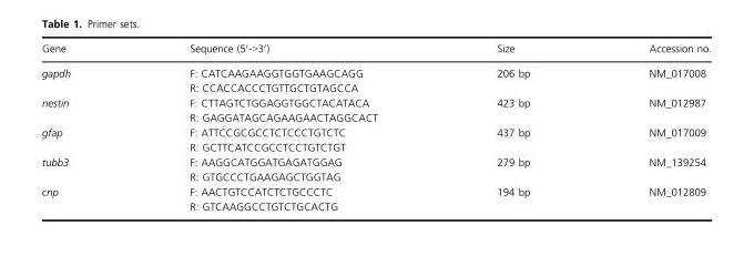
<table><thead><tr><td>Gene</td><td>Sequence (5′-&gt;3′)</td><td>Size</td><td>Accession no.</td></tr></thead><tbody><tr><td rowspan="2">gapdh</td><td>F: CATCAAGAAGGTGGTGAAGCAGG</td><td rowspan="2">206 bp</td><td rowspan="2">NM_017008</td></tr><tr><td>R: CCACCACCCTGTTGCTGTAGCCA</td></tr><tr><td rowspan="2">nestin</td><td>F: CTTAGTCTGGAGGTGGCTACATACA</td><td rowspan="2">423 bp</td><td rowspan="2">NM_012987</td></tr><tr><td>R: GAGGATAGCAGAAGAACTAGGCACT</td></tr><tr><td rowspan="2">gfap</td><td>F: ATTCCGCGCCTCTCCCTGTCTC</td><td rowspan="2">437 bp</td><td rowspan="2">NM_017009</td></tr><tr><td>R: GCTTCATCCGCCTCCTGTCTGT</td></tr><tr><td rowspan="2">tubb3</td><td>F: AAGGCATGGATGAGATGGAG</td><td rowspan="2">279 bp</td><td rowspan="2">NM_139254</td></tr><tr><td>R: GTGCCCTGAAGAGCTGGTAG</td></tr><tr><td rowspan="2">cnp</td><td>F: AACTGTCCATCTCTGCCCTC</td><td rowspan="2">194 bp</td><td rowspan="2">NM_012809</td></tr><tr><td>R: GTCAAGGCCTGTCTGCACTG</td></tr></tbody></table>